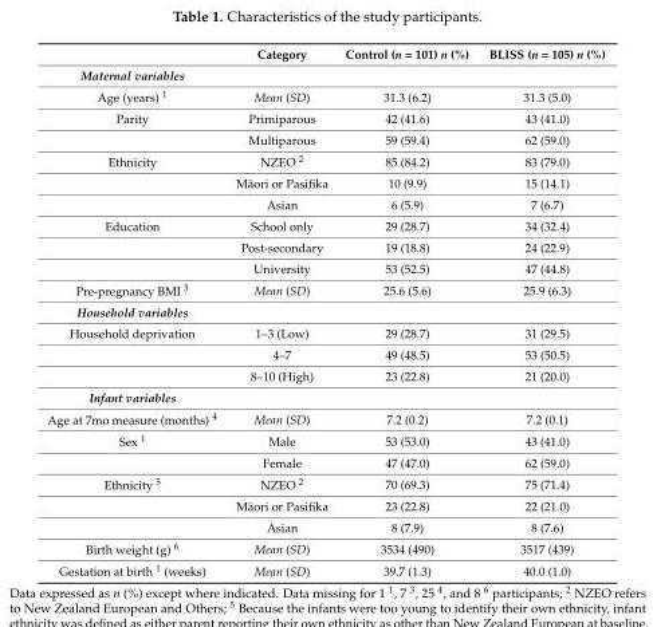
<table><thead><tr><td></td><td>Category</td><td>Control (n = 101) n (%)</td><td>BLISS (n = 105) n (%)</td></tr></thead><tbody><tr><td colspan="4">Maternal variables</td></tr><tr><td>Age (years) <sup>1</sup></td><td>Mean (SD)</td><td>31.3 (6.2)</td><td>31.3 (5.0)</td></tr><tr><td rowspan="2">Parity</td><td>Primiparous</td><td>42 (41.6)</td><td>43 (41.0)</td></tr><tr><td>Multiparous</td><td>59 (59.4)</td><td>62 (59.0)</td></tr><tr><td rowspan="3">Ethnicity</td><td>NZEO <sup>2</sup></td><td>85 (84.2)</td><td>83 (79.0)</td></tr><tr><td>M¯aori or Pasifika</td><td>10 (9.9)</td><td>15 (14.1)</td></tr><tr><td>Asian</td><td>6 (5.9)</td><td>7 (6.7)</td></tr><tr><td rowspan="3">Education</td><td>School only</td><td>29 (28.7)</td><td>34 (32.4)</td></tr><tr><td>Post-secondary</td><td>19 (18.8)</td><td>24 (22.9)</td></tr><tr><td>University</td><td>53 (52.5)</td><td>47 (44.8)</td></tr><tr><td>Pre-pregnancy BMI <sup>3</sup></td><td>Mean (SD)</td><td>25.6 (5.6)</td><td>25.9 (6.3)</td></tr><tr><td colspan="4">Household variables</td></tr><tr><td rowspan="3">Household deprivation</td><td>1–3 (Low)</td><td>29 (28.7)</td><td>31 (29.5)</td></tr><tr><td>4–7</td><td>49 (48.5)</td><td>53 (50.5)</td></tr><tr><td>8–10 (High)</td><td>23 (22.8)</td><td>21 (20.0)</td></tr><tr><td colspan="4">Infant variables</td></tr><tr><td>Age at 7mo measure (months) <sup>4</sup></td><td>Mean (SD)</td><td>7.2 (0.2)</td><td>7.2 (0.1)</td></tr><tr><td rowspan="2">Sex <sup>1</sup></td><td>Male</td><td>53 (53.0)</td><td>43 (41.0)</td></tr><tr><td>Female</td><td>47 (47.0)</td><td>62 (59.0)</td></tr><tr><td rowspan="3">Ethnicity <sup>5</sup></td><td>NZEO <sup>2</sup></td><td>70 (69.3)</td><td>75 (71.4)</td></tr><tr><td>M¯aori or Pasifika</td><td>23 (22.8)</td><td>22 (21.0)</td></tr><tr><td>Asian</td><td>8 (7.9)</td><td>8 (7.6)</td></tr><tr><td>Birth weight (g) <sup>6</sup></td><td>Mean (SD)</td><td>3534 (490)</td><td>3517 (439)</td></tr><tr><td>Gestation at birth <sup>1</sup> (weeks)</td><td>Mean (SD)</td><td>39.7 (1.3)</td><td>40.0 (1.0)</td></tr></tbody></table>